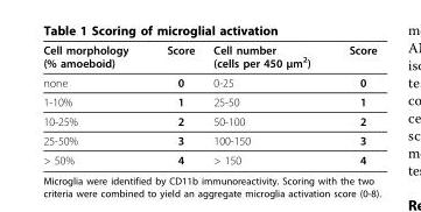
<table><thead><tr><td>Cell morphology (% amoeboid)</td><td>Score</td><td>Cell number (cells per 450 μm<sup>2</sup>)</td><td>Score</td></tr></thead><tbody><tr><td>none</td><td>0</td><td>0-25</td><td>0</td></tr><tr><td>1-10%</td><td>1</td><td>25-50</td><td>1</td></tr><tr><td>10-25%</td><td>2</td><td>50-100</td><td>2</td></tr><tr><td>25-50%</td><td>3</td><td>100-150</td><td>3</td></tr><tr><td>&gt; 50%</td><td>4</td><td>&gt; 150</td><td>4</td></tr></tbody></table>